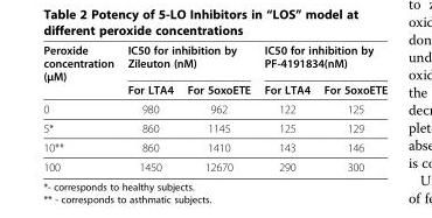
<table><thead><tr><td rowspan="2">Peroxide concentration (μM)</td><td colspan="2">IC50 for inhibition by Zileuton (nM)</td><td colspan="2">IC50 for inhibition by PF-4191834(nM)</td></tr><tr><td>For LTA4</td><td>For 5oxoETE</td><td>For LTA4</td><td>For 5oxoETE</td></tr></thead><tbody><tr><td>0</td><td>980</td><td>962</td><td>122</td><td>125</td></tr><tr><td>5*</td><td>860</td><td>1145</td><td>125</td><td>129</td></tr><tr><td>10**</td><td>860</td><td>1410</td><td>143</td><td>146</td></tr><tr><td>100</td><td>1450</td><td>12670</td><td>290</td><td>300</td></tr></tbody></table>